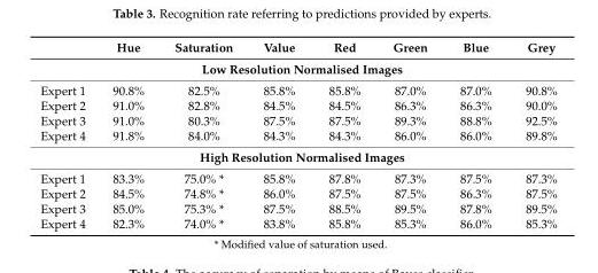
<table><thead><tr><td></td><td>Hue</td><td>Saturation</td><td>Value</td><td>Red</td><td>Green</td><td>Blue</td><td>Grey</td></tr></thead><tbody><tr><td colspan="8">Low Resolution Normalised Images</td></tr><tr><td>Expert 1</td><td>90.8%</td><td>82.5%</td><td>85.8%</td><td>85.8%</td><td>87.0%</td><td>87.0%</td><td>90.8%</td></tr><tr><td>Expert 2</td><td>91.0%</td><td>82.8%</td><td>84.5%</td><td>84.5%</td><td>86.3%</td><td>86.3%</td><td>90.0%</td></tr><tr><td>Expert 3</td><td>91.0%</td><td>80.3%</td><td>87.5%</td><td>87.5%</td><td>89.3%</td><td>88.8%</td><td>92.5%</td></tr><tr><td>Expert 4</td><td>91.8%</td><td>84.0%</td><td>84.3%</td><td>84.3%</td><td>86.0%</td><td>86.0%</td><td>89.8%</td></tr><tr><td colspan="8">High Resolution Normalised Images</td></tr><tr><td>Expert 1</td><td>83.3%</td><td>75.0% *</td><td>85.8%</td><td>87.8%</td><td>87.3%</td><td>87.5%</td><td>87.3%</td></tr><tr><td>Expert 2</td><td>84.5%</td><td>74.8% *</td><td>86.0%</td><td>87.5%</td><td>87.5%</td><td>86.3%</td><td>87.5%</td></tr><tr><td>Expert 3</td><td>85.0%</td><td>75.3% *</td><td>87.5%</td><td>88.5%</td><td>89.5%</td><td>87.8%</td><td>89.5%</td></tr><tr><td>Expert 4</td><td>82.3%</td><td>74.0% *</td><td>83.8%</td><td>85.8%</td><td>85.3%</td><td>86.0%</td><td>85.3%</td></tr></tbody></table>